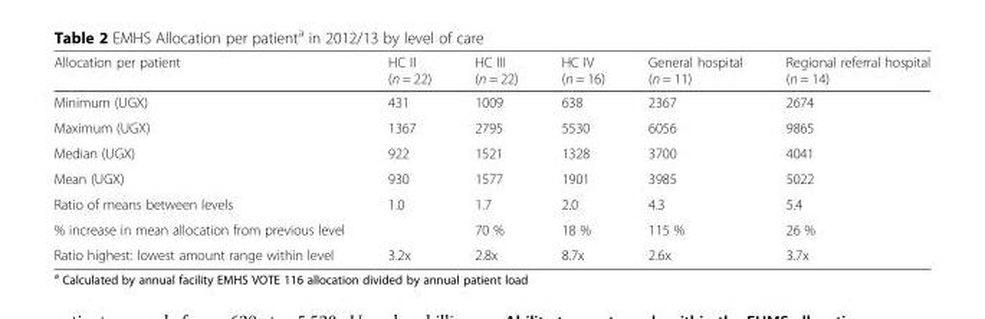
<table><thead><tr><td>Allocation per patient</td><td>HC II (n = 22)</td><td>HC III (n = 22)</td><td>HC IV (n = 16)</td><td>General hospital (n = 11)</td><td>Regional referral hospital (n = 14)</td></tr></thead><tbody><tr><td>Minimum (UGX)</td><td>431</td><td>1009</td><td>638</td><td>2367</td><td>2674</td></tr><tr><td>Maximum (UGX)</td><td>1367</td><td>2795</td><td>5530</td><td>6056</td><td>9865</td></tr><tr><td>Median (UGX)</td><td>922</td><td>1521</td><td>1328</td><td>3700</td><td>4041</td></tr><tr><td>Mean (UGX)</td><td>930</td><td>1577</td><td>1901</td><td>3985</td><td>5022</td></tr><tr><td>Ratio of means between levels</td><td>1.0</td><td>1.7</td><td>2.0</td><td>4.3</td><td>5.4</td></tr><tr><td>% increase in mean allocation from previous level</td><td></td><td>70 %</td><td>18 %</td><td>115 %</td><td>26 %</td></tr><tr><td>Ratio highest: lowest amount range within level</td><td>3.2x</td><td>2.8x</td><td>8.7x</td><td>2.6x</td><td>3.7x</td></tr></tbody></table>